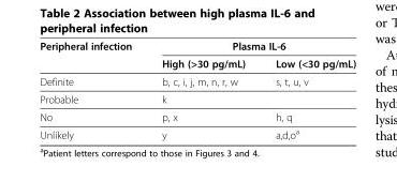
<table><thead><tr><td rowspan="2">Peripheral infection</td><td colspan="2">Plasma IL-6</td></tr><tr><td>High (&gt;30 pg/mL)</td><td>Low (&lt;30 pg/mL)</td></tr></thead><tbody><tr><td>Definite</td><td>b, c, i, j, m, n, r, w</td><td>s, t, u, v</td></tr><tr><td>Probable</td><td>k</td><td></td></tr><tr><td>No</td><td>p, x</td><td>h, q</td></tr><tr><td>Unlikely</td><td>y</td><td>a,d,o<sup>a</sup></td></tr></tbody></table>